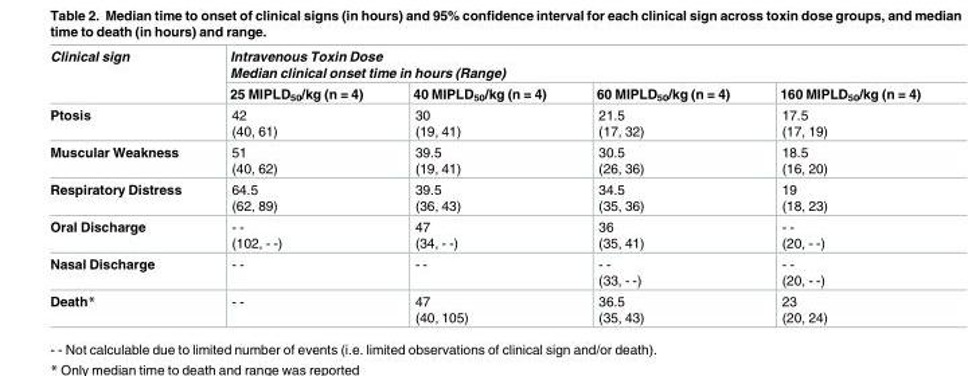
<table><thead><tr><td rowspan="2">Clinical sign</td><td colspan="4">Intravenous Toxin Dose Median clinical onset time in hours (Range)</td></tr><tr><td>25 MIPLD<sub>50</sub>/kg (n = 4)</td><td>40 MIPLD<sub>50</sub>/kg (n = 4)</td><td>60 MIPLD<sub>50</sub>/kg (n = 4)</td><td>160 MIPLD<sub>50</sub>/kg (n = 4)</td></tr></thead><tbody><tr><td>Ptosis</td><td>42 (40, 61)</td><td>30 (19, 41)</td><td>21.5 (17, 32)</td><td>17.5 (17, 19)</td></tr><tr><td>Muscular Weakness</td><td>51 (40, 62)</td><td>39.5 (19, 41)</td><td>30.5 (26, 36)</td><td>18.5 (16, 20)</td></tr><tr><td>Respiratory Distress</td><td>64.5 (62, 89)</td><td>39.5 (36, 43)</td><td>34.5 (35, 36)</td><td>19 (18, 23)</td></tr><tr><td>Oral Discharge</td><td>- - (102, - -)</td><td>47 (34, - -)</td><td>36 (35, 41)</td><td>- - (20, - -)</td></tr><tr><td>Nasal Discharge</td><td>- -</td><td>- -</td><td>- - (33, - -)</td><td>- - (20, - -)</td></tr><tr><td>Death*</td><td>- -</td><td>47 (40, 105)</td><td>36.5 (35, 43)</td><td>23 (20, 24)</td></tr></tbody></table>